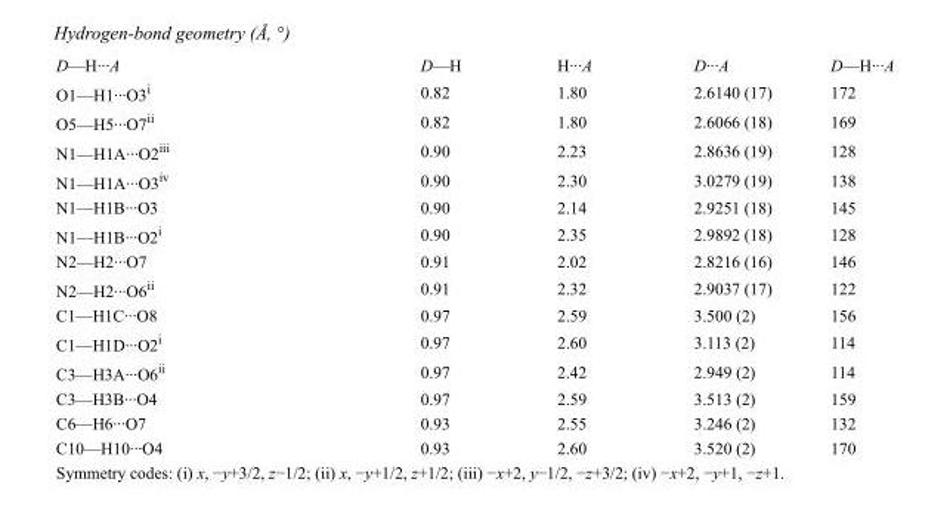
<table><tbody><tr><td>D—H···A</td><td>D—H</td><td>H···A</td><td>D···A</td><td>D—H···A</td></tr><tr><td>O1—H1···O3<sup>i</sup></td><td>0.82</td><td>1.80</td><td>2.6140 (17)</td><td>172</td></tr><tr><td>O5—H5···O7<sup>ii</sup></td><td>0.82</td><td>1.80</td><td>2.6066 (18)</td><td>169</td></tr><tr><td>N1—H1A···O2<sup>iii</sup></td><td>0.90</td><td>2.23</td><td>2.8636 (19)</td><td>128</td></tr><tr><td>N1—H1A···O3<sup>iv</sup></td><td>0.90</td><td>2.30</td><td>3.0279 (19)</td><td>138</td></tr><tr><td>N1—H1B···O3</td><td>0.90</td><td>2.14</td><td>2.9251 (18)</td><td>145</td></tr><tr><td>N1—H1B···O2<sup>i</sup></td><td>0.90</td><td>2.35</td><td>2.9892 (18)</td><td>128</td></tr><tr><td>N2—H2···O7</td><td>0.91</td><td>2.02</td><td>2.8216 (16)</td><td>146</td></tr><tr><td>N2—H2···O6<sup>ii</sup></td><td>0.91</td><td>2.32</td><td>2.9037 (17)</td><td>122</td></tr><tr><td>C1—H1C···O8</td><td>0.97</td><td>2.59</td><td>3.500 (2)</td><td>156</td></tr><tr><td>C1—H1D···O2<sup>i</sup></td><td>0.97</td><td>2.60</td><td>3.113 (2)</td><td>114</td></tr><tr><td>C3—H3A···O6<sup>ii</sup></td><td>0.97</td><td>2.42</td><td>2.949 (2)</td><td>114</td></tr><tr><td>C3—H3B···O4</td><td>0.97</td><td>2.59</td><td>3.513 (2)</td><td>159</td></tr><tr><td>C6—H6···O7</td><td>0.93</td><td>2.55</td><td>3.246 (2)</td><td>132</td></tr><tr><td>C10—H10···O4</td><td>0.93</td><td>2.60</td><td>3.520 (2)</td><td>170</td></tr></tbody></table>